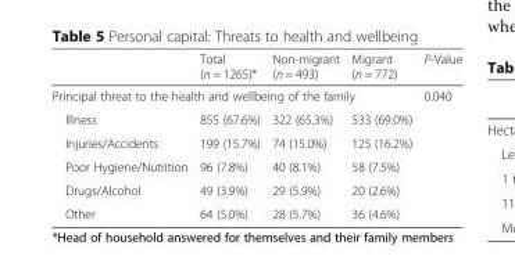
<table><thead><tr><td></td><td>Total (n = 1265)*</td><td>Non-migrant (n = 493)</td><td>Migrant (n = 772)</td><td>P-Value</td></tr></thead><tbody><tr><td colspan="4">Principal threat to the health and wellbeing of the family</td><td>0.040</td></tr><tr><td>Illness</td><td>855 (67.6%)</td><td>322 (65.3%)</td><td>533 (69.0%)</td><td></td></tr><tr><td>Injuries/Accidents</td><td>199 (15.7%)</td><td>74 (15.0%)</td><td>125 (16.2%)</td><td></td></tr><tr><td>Poor Hygiene/Nutrition</td><td>96 (7.8%)</td><td>40 (8.1%)</td><td>58 (7.5%)</td><td></td></tr><tr><td>Drugs/Alcohol</td><td>49 (3.9%)</td><td>29 (5.9%)</td><td>20 (2.6%)</td><td></td></tr><tr><td>Other</td><td>64 (5.0%)</td><td>28 (5.7%)</td><td>36 (4.6%)</td><td></td></tr></tbody></table>